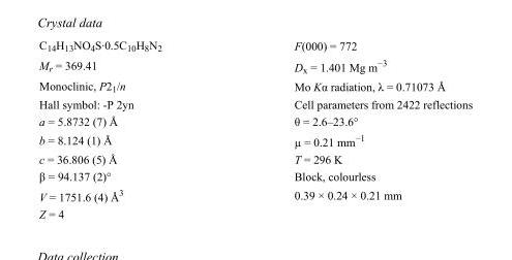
<table><tbody><tr><td>C<sub>14</sub>H<sub>13</sub>NO<sub>4</sub>S·0.5C<sub>10</sub>H<sub>8</sub>N<sub>2</sub></td><td>F(000) = 772</td></tr><tr><td>M<sub>r</sub> = 369.41</td><td>D<sub>x</sub> = 1.401 Mg m<sup>−3</sup></td></tr><tr><td>Monoclinic, P2<sub>1</sub>/n</td><td>Mo Kα radiation, λ = 0.71073 Å</td></tr><tr><td>Hall symbol: -P 2yn</td><td>Cell parameters from 2422 reflections</td></tr><tr><td>a = 5.8732 (7) Å</td><td>θ = 2.6–23.6°</td></tr><tr><td>b = 8.124 (1) Å</td><td>µ = 0.21 mm<sup>−1</sup></td></tr><tr><td>c = 36.806 (5) Å</td><td>T = 296 K</td></tr><tr><td>β = 94.137 (2)°</td><td>Block, colourless</td></tr><tr><td>V = 1751.6 (4) Å<sup>3</sup></td><td>0.39 × 0.24 × 0.21 mm</td></tr><tr><td>Z = 4</td><td></td></tr></tbody></table>